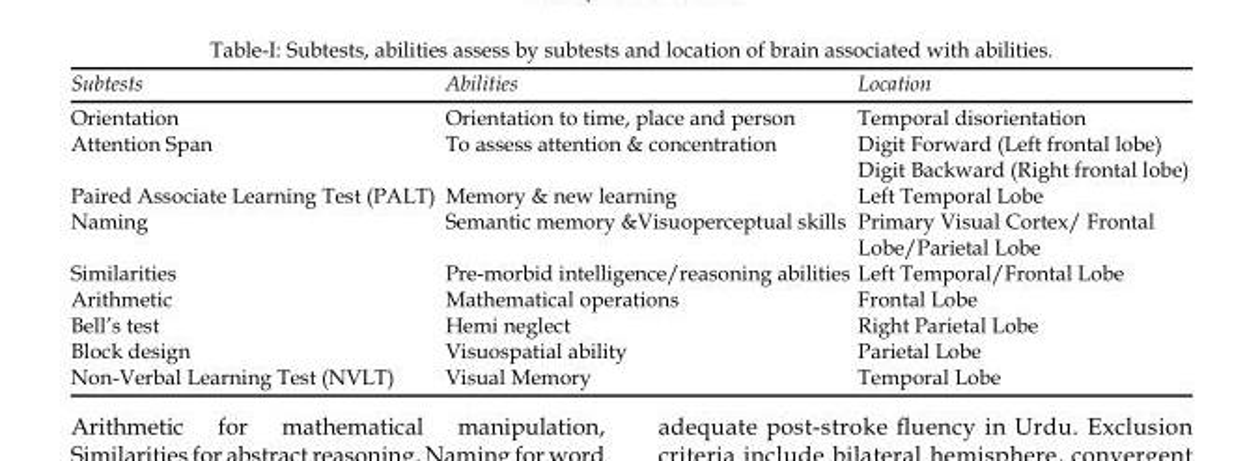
<table><thead><tr><td>Subtests</td><td>Abilities</td><td>Location</td></tr></thead><tbody><tr><td>Orientation</td><td>Orientation to time, place and person</td><td>Temporal disorientation</td></tr><tr><td>Attention Span</td><td>To assess attention &amp; concentration</td><td>Digit Forward (Left frontal lobe) Digit Backward (Right frontal lobe)</td></tr><tr><td>Paired Associate Learning Test (PALT)</td><td>Memory &amp; new learning</td><td>Left Temporal Lobe</td></tr><tr><td>Naming</td><td>Semantic memory &amp;Visuoperceptual skills</td><td>Primary Visual Cortex/ Frontal Lobe/Parietal Lobe</td></tr><tr><td>Similarities</td><td>Pre-morbid intelligence/reasoning abilities</td><td>Left Temporal/Frontal Lobe</td></tr><tr><td>Arithmetic</td><td>Mathematical operations</td><td>Frontal Lobe</td></tr><tr><td>Bell’s test</td><td>Hemi neglect</td><td>Right Parietal Lobe</td></tr><tr><td>Block design</td><td>Visuospatial ability</td><td>Parietal Lobe</td></tr><tr><td>Non-Verbal Learning Test (NVLT)</td><td>Visual Memory</td><td>Temporal Lobe</td></tr></tbody></table>